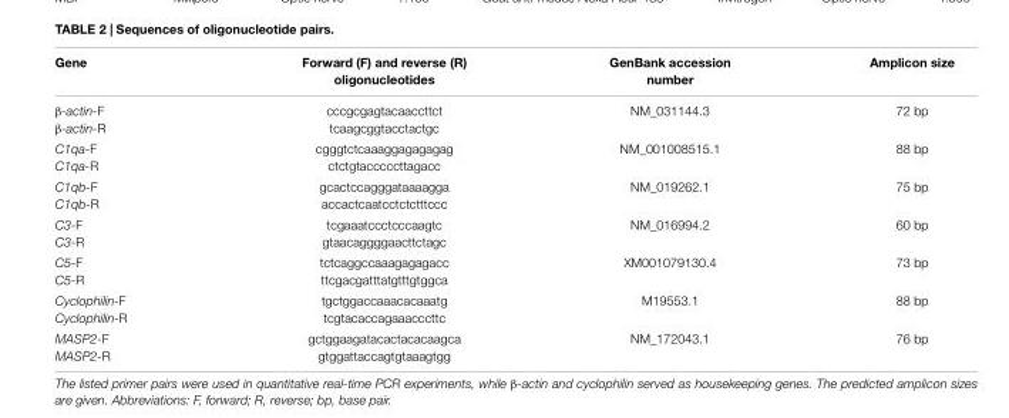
<table><thead><tr><td>Gene</td><td>Forward (F) and reverse (R) oligonucleotides</td><td>GenBank accession number</td><td>Amplicon size</td></tr></thead><tbody><tr><td>β-actin-F β-actin-R</td><td>cccgcgagtacaaccttct tcaagcggtacctactgc</td><td>NM_031144.3</td><td>72 bp</td></tr><tr><td>C1qa-F C1qa-R</td><td>cgggtctcaaaggagagagag ctctgtacccccttagacc</td><td>NM_001008515.1</td><td>88 bp</td></tr><tr><td>C1qb-F C1qb-R</td><td>gcactccagggataaaagga accactcaatcctctctttccc</td><td>NM_019262.1</td><td>75 bp</td></tr><tr><td>C3-F C3-R</td><td>tcgaaatccctcccaagtc gtaacaggggaacttctagc</td><td>NM_016994.2</td><td>60 bp</td></tr><tr><td>C5-F C5-R</td><td>tctcaggccaaagagagacc ttcgacgatttatgtttgtggca</td><td>XM001079130.4</td><td>73 bp</td></tr><tr><td>Cyclophilin-F Cyclophilin-R</td><td>tgctggaccaaacacaaatg tcgtacaccagaaacccttc</td><td>M19553.1</td><td>88 bp</td></tr><tr><td>MASP2-F MASP2-R</td><td>gctggaagatacactacacaagca gtggattaccagtgtaaagtgg</td><td>NM_172043.1</td><td>76 bp</td></tr></tbody></table>